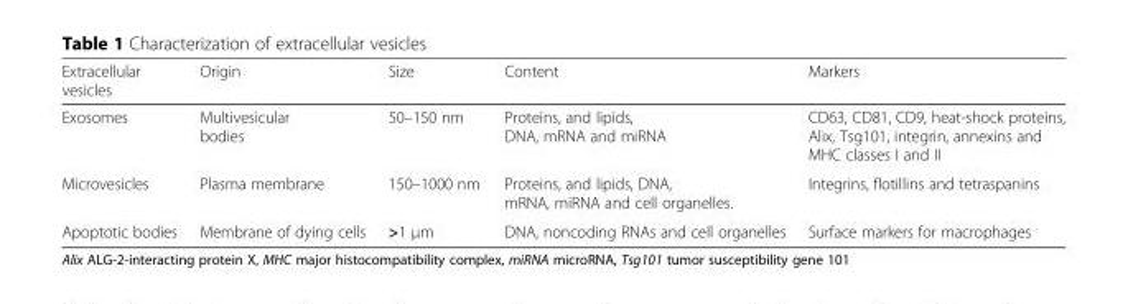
<table><thead><tr><td>Extracellular vesicles</td><td>Origin</td><td>Size</td><td>Content</td><td>Markers</td></tr></thead><tbody><tr><td>Exosomes</td><td>Multivesicular bodies</td><td>50–150 nm</td><td>Proteins, and lipids, DNA, mRNA and miRNA</td><td>CD63, CD81, CD9, heat-shock proteins, Alix, Tsg101, integrin, annexins and MHC classes I and II</td></tr><tr><td>Microvesicles</td><td>Plasma membrane</td><td>150–1000 nm</td><td>Proteins, and lipids, DNA, mRNA, miRNA and cell organelles.</td><td>Integrins, flotillins and tetraspanins</td></tr><tr><td>Apoptotic bodies</td><td>Membrane of dying cells</td><td>&gt;1 μm</td><td>DNA, noncoding RNAs and cell organelles</td><td>Surface markers for macrophages</td></tr></tbody></table>